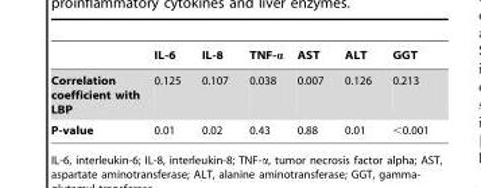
<table><thead><tr><td></td><td>IL-6</td><td>IL-8</td><td>TNF-α</td><td>AST</td><td>ALT</td><td>GGT</td></tr></thead><tbody><tr><td>Correlation coefficient with LBP</td><td>0.125</td><td>0.107</td><td>0.038</td><td>0.007</td><td>0.126</td><td>0.213</td></tr><tr><td>P-value</td><td>0.01</td><td>0.02</td><td>0.43</td><td>0.88</td><td>0.01</td><td>&lt;0.001</td></tr></tbody></table>